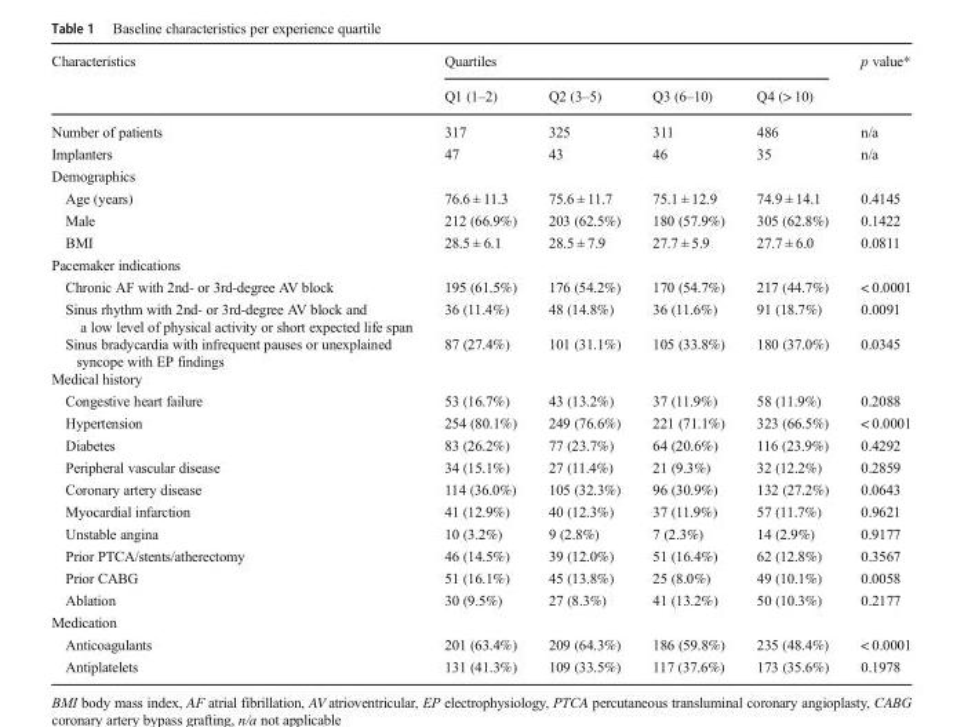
<table><thead><tr><td rowspan="2">Characteristics</td><td colspan="4">Quartiles</td><td rowspan="2">p value*</td></tr><tr><td>Q1 (1–2)</td><td>Q2 (3–5)</td><td>Q3 (6–10)</td><td>Q4 (&gt; 10)</td></tr></thead><tbody><tr><td>Number of patients</td><td>317</td><td>325</td><td>311</td><td>486</td><td>n/a</td></tr><tr><td>Implanters</td><td>47</td><td>43</td><td>46</td><td>35</td><td>n/a</td></tr><tr><td colspan="6">Demographics</td></tr><tr><td>Age (years)</td><td>76.6 ± 11.3</td><td>75.6 ± 11.7</td><td>75.1 ± 12.9</td><td>74.9 ± 14.1</td><td>0.4145</td></tr><tr><td>Male</td><td>212 (66.9%)</td><td>203 (62.5%)</td><td>180 (57.9%)</td><td>305 (62.8%)</td><td>0.1422</td></tr><tr><td>BMI</td><td>28.5 ± 6.1</td><td>28.5 ± 7.9</td><td>27.7 ± 5.9</td><td>27.7 ± 6.0</td><td>0.0811</td></tr><tr><td colspan="6">Pacemaker indications</td></tr><tr><td>Chronic AF with 2nd- or 3rd-degree AV block</td><td>195 (61.5%)</td><td>176 (54.2%)</td><td>170 (54.7%)</td><td>217 (44.7%)</td><td>&lt; 0.0001</td></tr><tr><td>Sinus rhythm with 2nd- or 3rd-degree AV block and a low level of physical activity or short expected life span</td><td>36 (11.4%)</td><td>48 (14.8%)</td><td>36 (11.6%)</td><td>91 (18.7%)</td><td>0.0091</td></tr><tr><td>Sinus bradycardia with infrequent pauses or unexplained syncope with EP findings</td><td>87 (27.4%)</td><td>101 (31.1%)</td><td>105 (33.8%)</td><td>180 (37.0%)</td><td>0.0345</td></tr><tr><td colspan="6">Medical history</td></tr><tr><td>Congestive heart failure</td><td>53 (16.7%)</td><td>43 (13.2%)</td><td>37 (11.9%)</td><td>58 (11.9%)</td><td>0.2088</td></tr><tr><td>Hypertension</td><td>254 (80.1%)</td><td>249 (76.6%)</td><td>221 (71.1%)</td><td>323 (66.5%)</td><td>&lt; 0.0001</td></tr><tr><td>Diabetes</td><td>83 (26.2%)</td><td>77 (23.7%)</td><td>64 (20.6%)</td><td>116 (23.9%)</td><td>0.4292</td></tr><tr><td>Peripheral vascular disease</td><td>34 (15.1%)</td><td>27 (11.4%)</td><td>21 (9.3%)</td><td>32 (12.2%)</td><td>0.2859</td></tr><tr><td>Coronary artery disease</td><td>114 (36.0%)</td><td>105 (32.3%)</td><td>96 (30.9%)</td><td>132 (27.2%)</td><td>0.0643</td></tr><tr><td>Myocardial infarction</td><td>41 (12.9%)</td><td>40 (12.3%)</td><td>37 (11.9%)</td><td>57 (11.7%)</td><td>0.9621</td></tr><tr><td>Unstable angina</td><td>10 (3.2%)</td><td>9 (2.8%)</td><td>7 (2.3%)</td><td>14 (2.9%)</td><td>0.9177</td></tr><tr><td>Prior PTCA/stents/atherectomy</td><td>46 (14.5%)</td><td>39 (12.0%)</td><td>51 (16.4%)</td><td>62 (12.8%)</td><td>0.3567</td></tr><tr><td>Prior CABG</td><td>51 (16.1%)</td><td>45 (13.8%)</td><td>25 (8.0%)</td><td>49 (10.1%)</td><td>0.0058</td></tr><tr><td>Ablation</td><td>30 (9.5%)</td><td>27 (8.3%)</td><td>41 (13.2%)</td><td>50 (10.3%)</td><td>0.2177</td></tr><tr><td colspan="6">Medication</td></tr><tr><td>Anticoagulants</td><td>201 (63.4%)</td><td>209 (64.3%)</td><td>186 (59.8%)</td><td>235 (48.4%)</td><td>&lt; 0.0001</td></tr><tr><td>Antiplatelets</td><td>131 (41.3%)</td><td>109 (33.5%)</td><td>117 (37.6%)</td><td>173 (35.6%)</td><td>0.1978</td></tr></tbody></table>